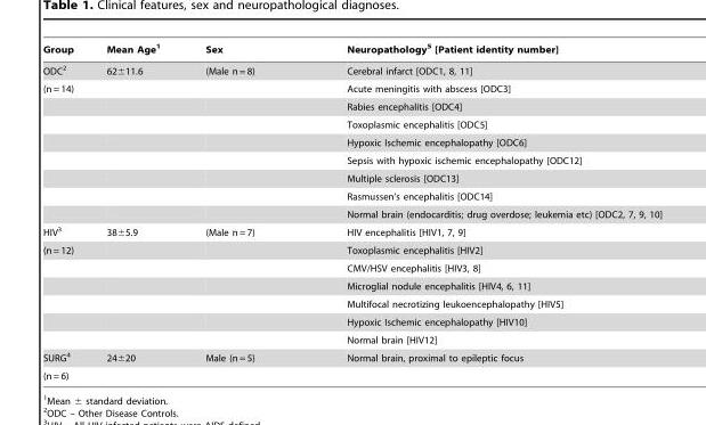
<table><thead><tr><td>Group</td><td>Mean Age<sup>1</sup></td><td>Sex</td><td>Neuropathology<sup>5</sup> [Patient identity number]</td></tr></thead><tbody><tr><td>ODC<sup>2</sup></td><td>62±11.6</td><td>(Male n = 8)</td><td>Cerebral infarct [ODC1, 8, 11]</td></tr><tr><td rowspan="8">(n = 14)</td><td></td><td></td><td>Acute meningitis with abscess [ODC3]</td></tr><tr><td></td><td></td><td>Rabies encephalitis [ODC4]</td></tr><tr><td></td><td></td><td>Toxoplasmic encephalitis [ODC5]</td></tr><tr><td></td><td></td><td>Hypoxic Ischemic encephalopathy [ODC6]</td></tr><tr><td></td><td></td><td>Sepsis with hypoxic ischemic encephalopathy [ODC12]</td></tr><tr><td></td><td></td><td>Multiple sclerosis [ODC13]</td></tr><tr><td></td><td></td><td>Rasmussen’s encephalitis [ODC14]</td></tr><tr><td></td><td></td><td>Normal brain (endocarditis; drug overdose; leukemia etc) [ODC2, 7, 9, 10]</td></tr><tr><td>HIV<sup>3</sup></td><td>38±5.9</td><td>(Male n = 7)</td><td>HIV encephalitis [HIV1, 7, 9]</td></tr><tr><td rowspan="6">(n = 12)</td><td></td><td></td><td>Toxoplasmic encephalitis [HIV2]</td></tr><tr><td></td><td></td><td>CMV/HSV encephalitis [HIV3, 8]</td></tr><tr><td></td><td></td><td>Microglial nodule encephalitis [HIV4, 6, 11]</td></tr><tr><td></td><td></td><td>Multifocal necrotizing leukoencephalopathy [HIV5]</td></tr><tr><td></td><td></td><td>Hypoxic Ischemic encephalopathy [HIV10]</td></tr><tr><td></td><td></td><td>Normal brain [HIV12]</td></tr><tr><td>SURG<sup>4</sup></td><td>24±20</td><td>Male (n = 5)</td><td>Normal brain, proximal to epileptic focus</td></tr><tr><td>(n = 6)</td><td></td><td></td><td></td></tr></tbody></table>